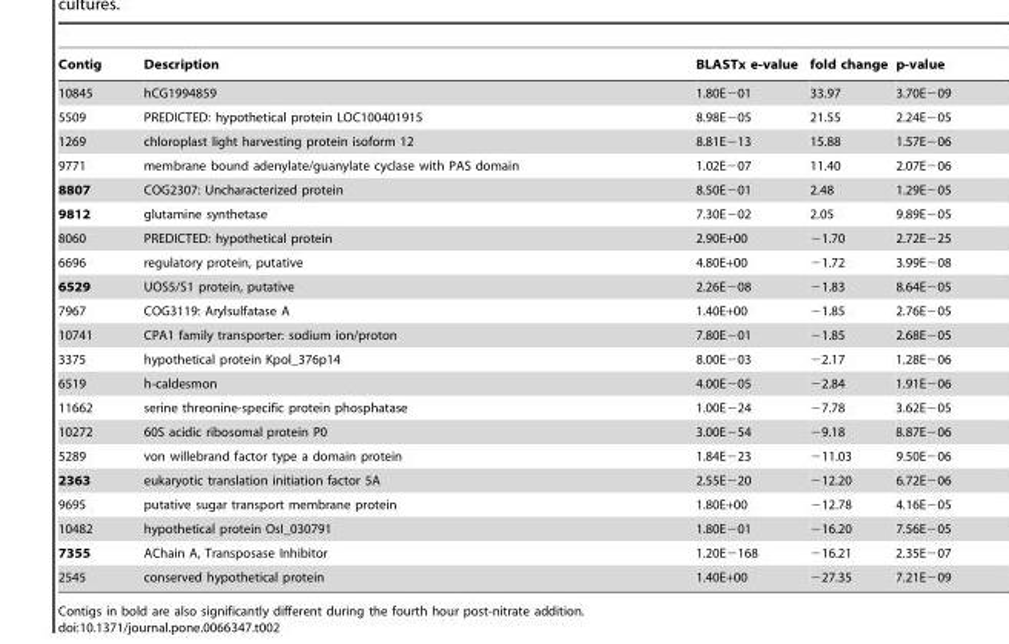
<table><thead><tr><td>Contig</td><td>Description</td><td>BLASTx e-value</td><td>fold change</td><td>p-value</td></tr></thead><tbody><tr><td>10845</td><td>hCG1994859</td><td>1.80E−01</td><td>33.97</td><td>3.70E−09</td></tr><tr><td>5509</td><td>PREDICTED: hypothetical protein LOC100401915</td><td>8.98E−05</td><td>21.55</td><td>2.24E−05</td></tr><tr><td>1269</td><td>chloroplast light harvesting protein isoform 12</td><td>8.81E−13</td><td>15.88</td><td>1.57E−06</td></tr><tr><td>9771</td><td>membrane bound adenylate/guanylate cyclase with PAS domain</td><td>1.02E−07</td><td>11.40</td><td>2.07E−06</td></tr><tr><td>8807</td><td>COG2307: Uncharacterized protein</td><td>8.50E−01</td><td>2.48</td><td>1.29E−05</td></tr><tr><td>9812</td><td>glutamine synthetase</td><td>7.30E−02</td><td>2.05</td><td>9.89E−05</td></tr><tr><td>8060</td><td>PREDICTED: hypothetical protein</td><td>2.90E+00</td><td>−1.70</td><td>2.72E−25</td></tr><tr><td>6696</td><td>regulatory protein, putative</td><td>4.80E+00</td><td>−1.72</td><td>3.99E−08</td></tr><tr><td>6529</td><td>UOS5/S1 protein, putative</td><td>2.26E−08</td><td>−1.83</td><td>8.64E−05</td></tr><tr><td>7967</td><td>COG3119: Arylsulfatase A</td><td>1.40E+00</td><td>−1.85</td><td>2.76E−05</td></tr><tr><td>10741</td><td>CPA1 family transporter: sodium ion/proton</td><td>7.80E−01</td><td>−1.85</td><td>2.68E−05</td></tr><tr><td>3375</td><td>hypothetical protein Kpol_376p14</td><td>8.00E−03</td><td>−2.17</td><td>1.28E−06</td></tr><tr><td>6519</td><td>h-caldesmon</td><td>4.00E−05</td><td>−2.84</td><td>1.91E−06</td></tr><tr><td>11662</td><td>serine threonine-specific protein phosphatase</td><td>1.00E−24</td><td>−7.78</td><td>3.62E−05</td></tr><tr><td>10272</td><td>60S acidic ribosomal protein P0</td><td>3.00E−54</td><td>−9.18</td><td>8.87E−06</td></tr><tr><td>5289</td><td>von willebrand factor type a domain protein</td><td>1.84E−23</td><td>−11.03</td><td>9.50E−06</td></tr><tr><td>2363</td><td>eukaryotic translation initiation factor 5A</td><td>2.55E−20</td><td>−12.20</td><td>6.72E−06</td></tr><tr><td>9695</td><td>putative sugar transport membrane protein</td><td>1.80E+00</td><td>−12.78</td><td>4.16E−05</td></tr><tr><td>10482</td><td>hypothetical protein OsI_030791</td><td>1.80E−01</td><td>−16.20</td><td>7.56E−05</td></tr><tr><td>7355</td><td>AChain A, Transposase Inhibitor</td><td>1.20E−168</td><td>−16.21</td><td>2.35E−07</td></tr><tr><td>2545</td><td>conserved hypothetical protein</td><td>1.40E+00</td><td>−27.35</td><td>7.21E−09</td></tr></tbody></table>